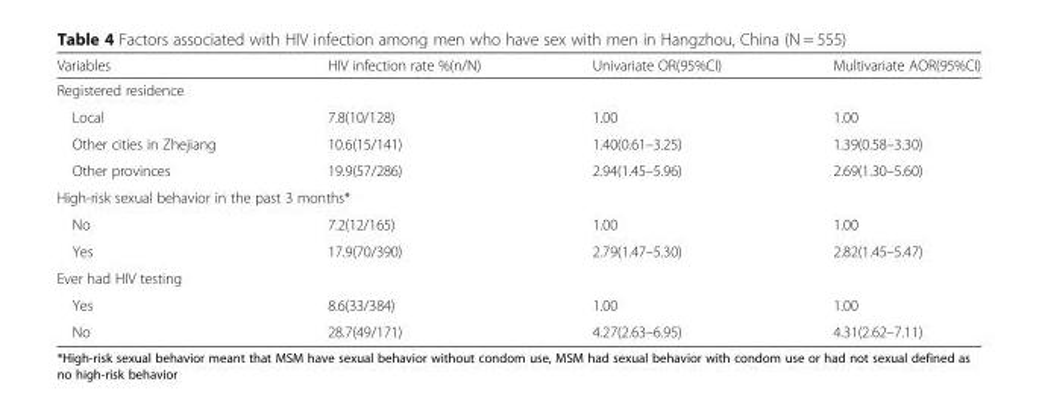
<table><thead><tr><td>Variables</td><td>HIV infection rate %(n/N)</td><td>Univariate OR(95%CI)</td><td>Multivariate AOR(95%CI)</td></tr></thead><tbody><tr><td colspan="4">Registered residence</td></tr><tr><td>Local</td><td>7.8(10/128)</td><td>1.00</td><td>1.00</td></tr><tr><td>Other cities in Zhejiang</td><td>10.6(15/141)</td><td>1.40(0.61–3.25)</td><td>1.39(0.58–3.30)</td></tr><tr><td>Other provinces</td><td>19.9(57/286)</td><td>2.94(1.45–5.96)</td><td>2.69(1.30–5.60)</td></tr><tr><td colspan="4">High-risk sexual behavior in the past 3 months*</td></tr><tr><td>No</td><td>7.2(12/165)</td><td>1.00</td><td>1.00</td></tr><tr><td>Yes</td><td>17.9(70/390)</td><td>2.79(1.47–5.30)</td><td>2.82(1.45–5.47)</td></tr><tr><td colspan="4">Ever had HIV testing</td></tr><tr><td>Yes</td><td>8.6(33/384)</td><td>1.00</td><td>1.00</td></tr><tr><td>No</td><td>28.7(49/171)</td><td>4.27(2.63–6.95)</td><td>4.31(2.62–7.11)</td></tr></tbody></table>